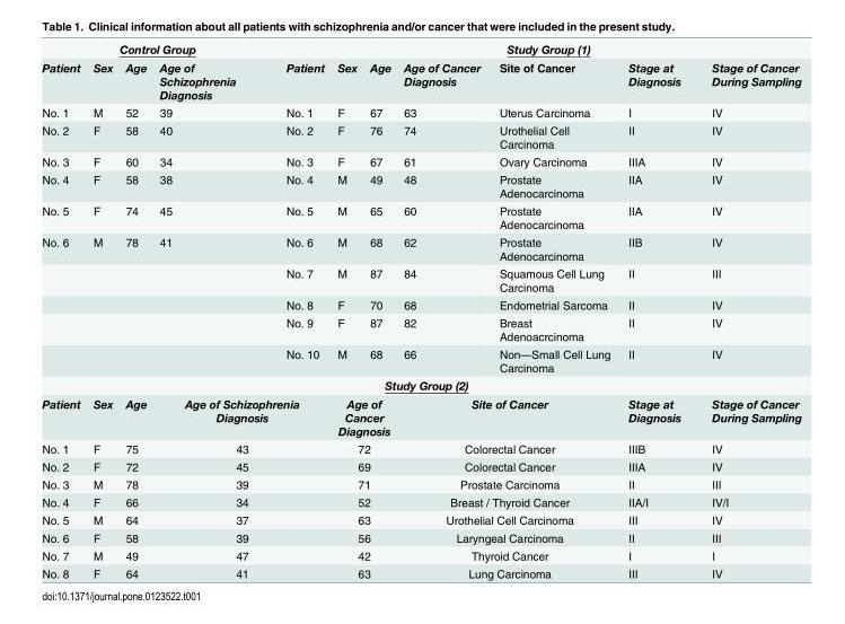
<table><tbody><tr><td colspan="4">Control Group</td><td colspan="7">Study Group (1)</td></tr><tr><td>Patient</td><td>Sex</td><td>Age</td><td>Age of Schizophrenia Diagnosis</td><td>Patient</td><td>Sex</td><td>Age</td><td>Age of Cancer Diagnosis</td><td>Site of Cancer</td><td>Stage at Diagnosis</td><td>Stage of Cancer During Sampling</td></tr><tr><td>No. 1</td><td>M</td><td>52</td><td>39</td><td>No. 1</td><td>F</td><td>67</td><td>63</td><td>Uterus Carcinoma</td><td>I</td><td>IV</td></tr><tr><td>No. 2</td><td>F</td><td>58</td><td>40</td><td>No. 2</td><td>F</td><td>76</td><td>74</td><td>Urothelial Cell Carcinoma</td><td>II</td><td>IV</td></tr><tr><td>No. 3</td><td>F</td><td>60</td><td>34</td><td>No. 3</td><td>F</td><td>67</td><td>61</td><td>Ovary Carcinoma</td><td>IIIA</td><td>IV</td></tr><tr><td>No. 4</td><td>F</td><td>58</td><td>38</td><td>No. 4</td><td>M</td><td>49</td><td>48</td><td>Prostate Adenocarcinoma</td><td>IIA</td><td>IV</td></tr><tr><td>No. 5</td><td>F</td><td>74</td><td>45</td><td>No. 5</td><td>M</td><td>65</td><td>60</td><td>Prostate Adenocarcinoma</td><td>IIA</td><td>IV</td></tr><tr><td rowspan="5">No. 6</td><td>M</td><td>78</td><td>41</td><td>No. 6</td><td>M</td><td>68</td><td>62</td><td>Prostate Adenocarcinoma</td><td>IIB</td><td>IV</td></tr><tr><td></td><td></td><td></td><td>No. 7</td><td>M</td><td>87</td><td>84</td><td>Squamous Cell Lung Carcinoma</td><td>II</td><td>III</td></tr><tr><td></td><td></td><td></td><td>No. 8</td><td>F</td><td>70</td><td>68</td><td>Endometrial Sarcoma</td><td>II</td><td>IV</td></tr><tr><td></td><td></td><td></td><td>No. 9</td><td>F</td><td>87</td><td>82</td><td>Breast Adenoacrcinoma</td><td>II</td><td>IV</td></tr><tr><td></td><td></td><td></td><td>No. 10</td><td>M</td><td>68</td><td>66</td><td>Non—Small Cell Lung Carcinoma</td><td>II</td><td>IV</td></tr><tr><td colspan="11">Study Group (2)</td></tr><tr><td>Patient</td><td>Sex</td><td>Age</td><td colspan="2">Age of Schizophrenia Diagnosis</td><td colspan="2">Age of Cancer Diagnosis</td><td colspan="2">Site of Cancer</td><td>Stage at Diagnosis</td><td>Stage of Cancer During Sampling</td></tr><tr><td>No. 1</td><td>F</td><td>75</td><td colspan="2">43</td><td colspan="2">72</td><td colspan="2">Colorectal Cancer</td><td>IIIB</td><td>IV</td></tr><tr><td>No. 2</td><td>F</td><td>72</td><td colspan="2">45</td><td colspan="2">69</td><td colspan="2">Colorectal Cancer</td><td>IIIA</td><td>IV</td></tr><tr><td>No. 3</td><td>M</td><td>78</td><td colspan="2">39</td><td colspan="2">71</td><td colspan="2">Prostate Carcinoma</td><td>II</td><td>III</td></tr><tr><td>No. 4</td><td>F</td><td>66</td><td colspan="2">34</td><td colspan="2">52</td><td colspan="2">Breast / Thyroid Cancer</td><td>IIA/I</td><td>IV/I</td></tr><tr><td>No. 5</td><td>M</td><td>64</td><td colspan="2">37</td><td colspan="2">63</td><td colspan="2">Urothelial Cell Carcinoma</td><td>III</td><td>IV</td></tr><tr><td>No. 6</td><td>F</td><td>58</td><td colspan="2">39</td><td colspan="2">56</td><td colspan="2">Laryngeal Carcinoma</td><td>II</td><td>III</td></tr><tr><td>No. 7</td><td>M</td><td>49</td><td colspan="2">47</td><td colspan="2">42</td><td colspan="2">Thyroid Cancer</td><td>I</td><td>I</td></tr><tr><td>No. 8</td><td>F</td><td>64</td><td colspan="2">41</td><td colspan="2">63</td><td colspan="2">Lung Carcinoma</td><td>III</td><td>IV</td></tr></tbody></table>